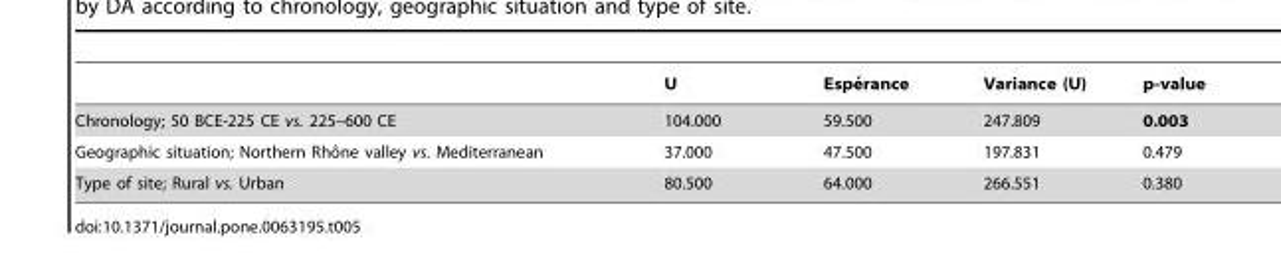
<table><thead><tr><td></td><td>U</td><td>Espe´rance</td><td>Variance (U)</td><td>p-value</td></tr></thead><tbody><tr><td>Chronology; 50 BCE-225 CE vs. 225–600 CE</td><td>104.000</td><td>59.500</td><td>247.809</td><td>0.003</td></tr><tr><td>Geographic situation; Northern Rhoˆne valley vs. Mediterranean</td><td>37.000</td><td>47.500</td><td>197.831</td><td>0.479</td></tr><tr><td>Type of site; Rural vs. Urban</td><td>80.500</td><td>64.000</td><td>266.551</td><td>0.380</td></tr></tbody></table>